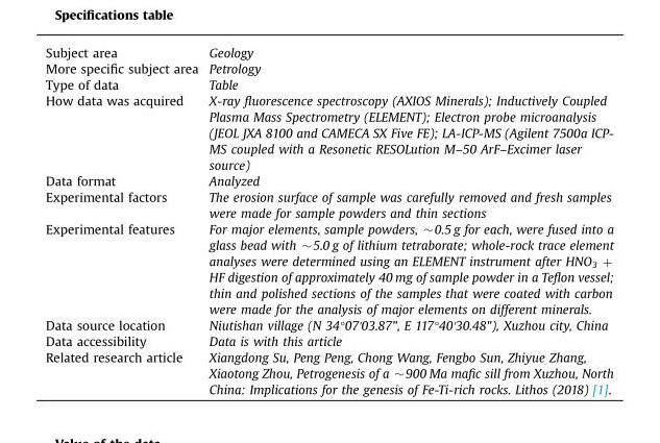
<table><tbody><tr><td>Subject area</td><td>Geology</td></tr><tr><td>More specific subject area</td><td>Petrology</td></tr><tr><td>Type of data</td><td>Table</td></tr><tr><td>How data was acquired</td><td>X-ray fluorescence spectroscopy (AXIOS Minerals); Inductively Coupled Plasma Mass Spectrometry (ELEMENT); Electron probe microanalysis (JEOL JXA 8100 and CAMECA SX Five FE); LA-ICP-MS (Agilent 7500a ICP- MS coupled with a Resonetic RESOLution M–50 ArF–Excimer laser source)</td></tr><tr><td>Data format</td><td>Analyzed</td></tr><tr><td>Experimental factors</td><td>The erosion surface of sample was carefully removed and fresh samples were made for sample powders and thin sections</td></tr><tr><td>Experimental features</td><td>For major elements, sample powders, ~0.5 g for each, were fused into a glass bead with ~5.0 g of lithium tetraborate; whole-rock trace element analyses were determined using an ELEMENT instrument after HNO<sub>3</sub> + HF digestion of approximately 40 mg of sample powder in a Teflon vessel; thin and polished sections of the samples that were coated with carbon were made for the analysis of major elements on different minerals.</td></tr><tr><td>Data source location</td><td>Niutishan village (N 34°07&#x27;03.87&quot;, E 117°40&#x27;30.48&quot;), Xuzhou city, China</td></tr><tr><td>Data accessibility</td><td>Data is with this article</td></tr><tr><td>Related research article</td><td>Xiangdong Su, Peng Peng, Chong Wang, Fengbo Sun, Zhiyue Zhang, Xiaotong Zhou, Petrogenesis of a ~900 Ma mafic sill from Xuzhou, North China: Implications for the genesis of Fe-Ti-rich rocks. Lithos (2018) [1].</td></tr></tbody></table>